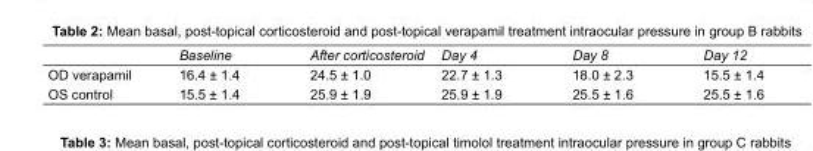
<table><thead><tr><td></td><td>Baseline</td><td>After corticosteroid</td><td>Day 4</td><td>Day 8</td><td>Day 12</td></tr></thead><tbody><tr><td>OD verapamil</td><td>16.4 ± 1.4</td><td>24.5 ± 1.0</td><td>22.7 ± 1.3</td><td>18.0 ± 2.3</td><td>15.5 ± 1.4</td></tr><tr><td>OS control</td><td>15.5 ± 1.4</td><td>25.9 ± 1.9</td><td>25.9 ± 1.9</td><td>25.5 ± 1.6</td><td>25.5 ± 1.6</td></tr></tbody></table>